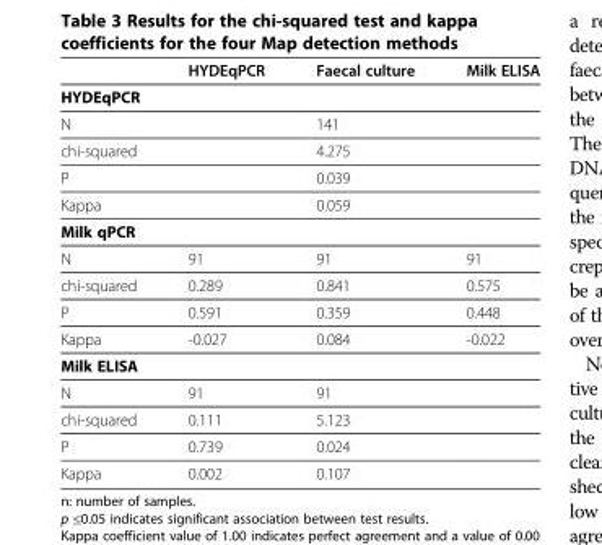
<table><thead><tr><td></td><td>HYDEqPCR</td><td>Faecal culture</td><td>Milk ELISA</td></tr></thead><tbody><tr><td colspan="4">HYDEqPCR</td></tr><tr><td>N</td><td></td><td>141</td><td></td></tr><tr><td>chi-squared</td><td></td><td>4.275</td><td></td></tr><tr><td>P</td><td></td><td>0.039</td><td></td></tr><tr><td>Kappa</td><td></td><td>0.059</td><td></td></tr><tr><td colspan="4">Milk qPCR</td></tr><tr><td>N</td><td>91</td><td>91</td><td>91</td></tr><tr><td>chi-squared</td><td>0.289</td><td>0.841</td><td>0.575</td></tr><tr><td>P</td><td>0.591</td><td>0.359</td><td>0.448</td></tr><tr><td>Kappa</td><td>-0.027</td><td>0.084</td><td>-0.022</td></tr><tr><td colspan="4">Milk ELISA</td></tr><tr><td>N</td><td>91</td><td>91</td><td></td></tr><tr><td>chi-squared</td><td>0.111</td><td>5.123</td><td></td></tr><tr><td>P</td><td>0.739</td><td>0.024</td><td></td></tr><tr><td>Kappa</td><td>0.002</td><td>0.107</td><td></td></tr></tbody></table>